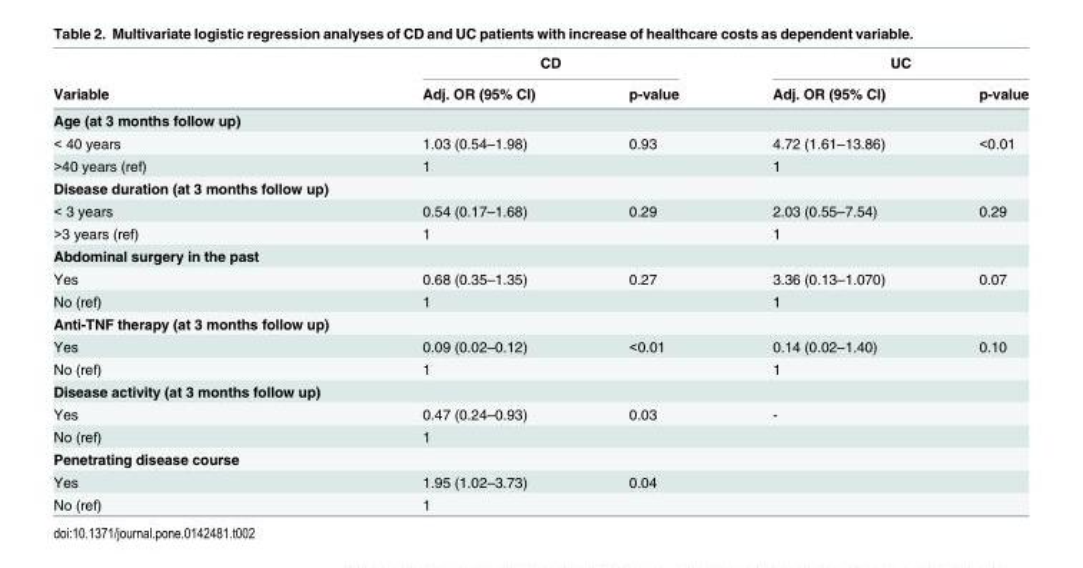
<table><thead><tr><td rowspan="2">Variable</td><td colspan="2">CD</td><td colspan="2">UC</td></tr><tr><td>Adj. OR (95% CI)</td><td>p-value</td><td>Adj. OR (95% CI)</td><td>p-value</td></tr></thead><tbody><tr><td colspan="5">Age (at 3 months follow up)</td></tr><tr><td>&lt; 40 years</td><td>1.03 (0.54–1.98)</td><td>0.93</td><td>4.72 (1.61–13.86)</td><td>&lt;0.01</td></tr><tr><td>&gt;40 years (ref)</td><td>1</td><td></td><td>1</td><td></td></tr><tr><td colspan="5">Disease duration (at 3 months follow up)</td></tr><tr><td>&lt; 3 years</td><td>0.54 (0.17–1.68)</td><td>0.29</td><td>2.03 (0.55–7.54)</td><td>0.29</td></tr><tr><td>&gt;3 years (ref)</td><td>1</td><td></td><td>1</td><td></td></tr><tr><td colspan="5">Abdominal surgery in the past</td></tr><tr><td>Yes</td><td>0.68 (0.35–1.35)</td><td>0.27</td><td>3.36 (0.13–1.070)</td><td>0.07</td></tr><tr><td>No (ref)</td><td>1</td><td></td><td>1</td><td></td></tr><tr><td colspan="5">Anti-TNF therapy (at 3 months follow up)</td></tr><tr><td>Yes</td><td>0.09 (0.02–0.12)</td><td>&lt;0.01</td><td>0.14 (0.02–1.40)</td><td>0.10</td></tr><tr><td>No (ref)</td><td>1</td><td></td><td>1</td><td></td></tr><tr><td colspan="5">Disease activity (at 3 months follow up)</td></tr><tr><td>Yes</td><td>0.47 (0.24–0.93)</td><td>0.03</td><td>-</td><td></td></tr><tr><td>No (ref)</td><td>1</td><td></td><td></td><td></td></tr><tr><td colspan="5">Penetrating disease course</td></tr><tr><td>Yes</td><td>1.95 (1.02–3.73)</td><td>0.04</td><td></td><td></td></tr><tr><td>No (ref)</td><td>1</td><td></td><td></td><td></td></tr></tbody></table>